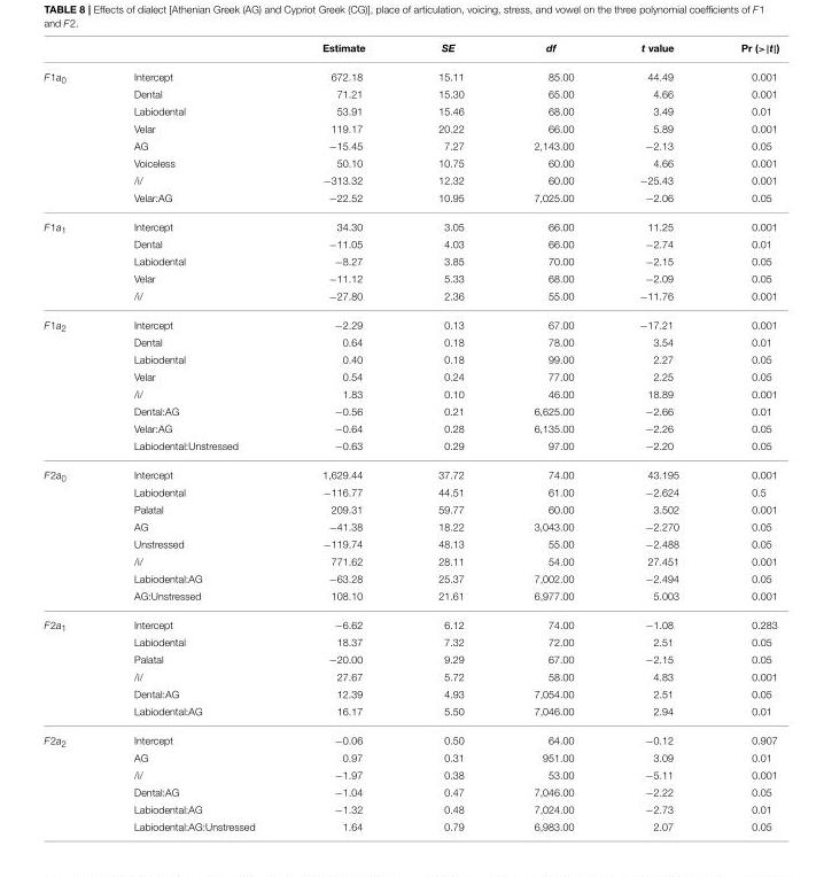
<table><thead><tr><td></td><td></td><td>Estimate</td><td>SE</td><td>df</td><td>t value</td><td>Pr (&gt;|t|)</td></tr></thead><tbody><tr><td rowspan="8">F1a<sub>0</sub></td><td>Intercept</td><td>672.18</td><td>15.11</td><td>85.00</td><td>44.49</td><td>0.001</td></tr><tr><td>Dental</td><td>71.21</td><td>15.30</td><td>65.00</td><td>4.66</td><td>0.001</td></tr><tr><td>Labiodental</td><td>53.91</td><td>15.46</td><td>68.00</td><td>3.49</td><td>0.01</td></tr><tr><td>Velar</td><td>119.17</td><td>20.22</td><td>66.00</td><td>5.89</td><td>0.001</td></tr><tr><td>AG</td><td>−15.45</td><td>7.27</td><td>2,143.00</td><td>−2.13</td><td>0.05</td></tr><tr><td>Voiceless</td><td>50.10</td><td>10.75</td><td>60.00</td><td>4.66</td><td>0.001</td></tr><tr><td>/i/</td><td>−313.32</td><td>12.32</td><td>60.00</td><td>−25.43</td><td>0.001</td></tr><tr><td>Velar:AG</td><td>−22.52</td><td>10.95</td><td>7,025.00</td><td>−2.06</td><td>0.05</td></tr><tr><td rowspan="5">F1a<sub>1</sub></td><td>Intercept</td><td>34.30</td><td>3.05</td><td>66.00</td><td>11.25</td><td>0.001</td></tr><tr><td>Dental</td><td>−11.05</td><td>4.03</td><td>66.00</td><td>−2.74</td><td>0.01</td></tr><tr><td>Labiodental</td><td>−8.27</td><td>3.85</td><td>70.00</td><td>−2.15</td><td>0.05</td></tr><tr><td>Velar</td><td>−11.12</td><td>5.33</td><td>68.00</td><td>−2.09</td><td>0.05</td></tr><tr><td>/i/</td><td>−27.80</td><td>2.36</td><td>55.00</td><td>−11.76</td><td>0.001</td></tr><tr><td rowspan="8">F1a<sub>2</sub></td><td>Intercept</td><td>−2.29</td><td>0.13</td><td>67.00</td><td>−17.21</td><td>0.001</td></tr><tr><td>Dental</td><td>0.64</td><td>0.18</td><td>78.00</td><td>3.54</td><td>0.01</td></tr><tr><td>Labiodental</td><td>0.40</td><td>0.18</td><td>99.00</td><td>2.27</td><td>0.05</td></tr><tr><td>Velar</td><td>0.54</td><td>0.24</td><td>77.00</td><td>2.25</td><td>0.05</td></tr><tr><td>/i/</td><td>1.83</td><td>0.10</td><td>46.00</td><td>18.89</td><td>0.001</td></tr><tr><td>Dental:AG</td><td>−0.56</td><td>0.21</td><td>6,625.00</td><td>−2.66</td><td>0.01</td></tr><tr><td>Velar:AG</td><td>−0.64</td><td>0.28</td><td>6,135.00</td><td>−2.26</td><td>0.05</td></tr><tr><td>Labiodental:Unstressed</td><td>−0.63</td><td>0.29</td><td>97.00</td><td>−2.20</td><td>0.05</td></tr><tr><td rowspan="8">F2a<sub>0</sub></td><td>Intercept</td><td>1,629.44</td><td>37.72</td><td>74.00</td><td>43.195</td><td>0.001</td></tr><tr><td>Labiodental</td><td>−116.77</td><td>44.51</td><td>61.00</td><td>−2.624</td><td>0.5</td></tr><tr><td>Palatal</td><td>209.31</td><td>59.77</td><td>60.00</td><td>3.502</td><td>0.001</td></tr><tr><td>AG</td><td>−41.38</td><td>18.22</td><td>3,043.00</td><td>−2.270</td><td>0.05</td></tr><tr><td>Unstressed</td><td>−119.74</td><td>48.13</td><td>55.00</td><td>−2.488</td><td>0.05</td></tr><tr><td>/i/</td><td>771.62</td><td>28.11</td><td>54.00</td><td>27.451</td><td>0.001</td></tr><tr><td>Labiodental:AG</td><td>−63.28</td><td>25.37</td><td>7,002.00</td><td>−2.494</td><td>0.05</td></tr><tr><td>AG:Unstressed</td><td>108.10</td><td>21.61</td><td>6,977.00</td><td>5.003</td><td>0.001</td></tr><tr><td rowspan="6">F2a<sub>1</sub></td><td>Intercept</td><td>−6.62</td><td>6.12</td><td>74.00</td><td>−1.08</td><td>0.283</td></tr><tr><td>Labiodental</td><td>18.37</td><td>7.32</td><td>72.00</td><td>2.51</td><td>0.05</td></tr><tr><td>Palatal</td><td>−20.00</td><td>9.29</td><td>67.00</td><td>−2.15</td><td>0.05</td></tr><tr><td>/i/</td><td>27.67</td><td>5.72</td><td>58.00</td><td>4.83</td><td>0.001</td></tr><tr><td>Dental:AG</td><td>12.39</td><td>4.93</td><td>7,054.00</td><td>2.51</td><td>0.05</td></tr><tr><td>Labiodental:AG</td><td>16.17</td><td>5.50</td><td>7,046.00</td><td>2.94</td><td>0.01</td></tr><tr><td rowspan="6">F2a<sub>2</sub></td><td>Intercept</td><td>−0.06</td><td>0.50</td><td>64.00</td><td>−0.12</td><td>0.907</td></tr><tr><td>AG</td><td>0.97</td><td>0.31</td><td>951.00</td><td>3.09</td><td>0.01</td></tr><tr><td>/i/</td><td>−1.97</td><td>0.38</td><td>53.00</td><td>−5.11</td><td>0.001</td></tr><tr><td>Dental:AG</td><td>−1.04</td><td>0.47</td><td>7,046.00</td><td>−2.22</td><td>0.05</td></tr><tr><td>Labiodental:AG</td><td>−1.32</td><td>0.48</td><td>7,024.00</td><td>−2.73</td><td>0.01</td></tr><tr><td>Labiodental:AG:Unstressed</td><td>1.64</td><td>0.79</td><td>6,983.00</td><td>2.07</td><td>0.05</td></tr></tbody></table>